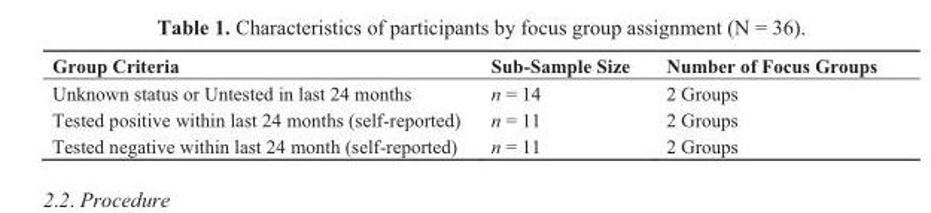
<table><thead><tr><td>Group Criteria</td><td>Sub-Sample Size</td><td>Number of Focus Groups</td></tr></thead><tbody><tr><td>Unknown status or Untested in last 24 months</td><td>n = 14</td><td>2 Groups</td></tr><tr><td>Tested positive within last 24 months (self-reported)</td><td>n = 11</td><td>2 Groups</td></tr><tr><td>Tested negative within last 24 month (self-reported)</td><td>n = 11</td><td>2 Groups</td></tr></tbody></table>